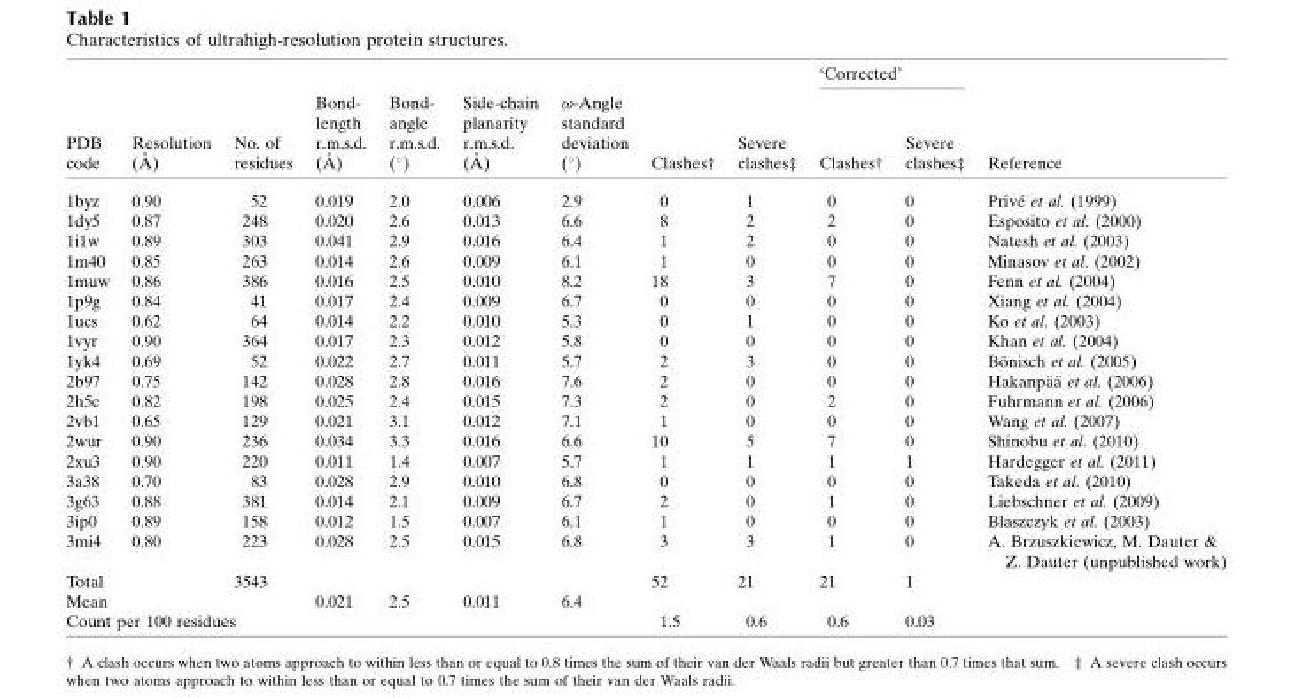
<table><thead><tr><td rowspan="2">PDB code</td><td rowspan="2">Resolution (A˚ )</td><td rowspan="2">No. of residues</td><td rowspan="2">Bond- length r.m.s.d. (A˚ )</td><td rowspan="2">Bond- angle r.m.s.d. (�)</td><td rowspan="2">Side-chain planarity r.m.s.d. (A˚ )</td><td rowspan="2">!-Angle standard deviation (�)</td><td rowspan="2">Clashes†</td><td rowspan="2">Severe clashes‡</td><td colspan="2">‘Corrected’</td><td rowspan="2">Reference</td></tr><tr><td>Clashes†</td><td>Severe clashes‡</td></tr></thead><tbody><tr><td>1byz</td><td>0.90</td><td>52</td><td>0.019</td><td>2.0</td><td>0.006</td><td>2.9</td><td>0</td><td>1</td><td>0</td><td>0</td><td>Prive´ et al. (1999)</td></tr><tr><td>1dy5</td><td>0.87</td><td>248</td><td>0.020</td><td>2.6</td><td>0.013</td><td>6.6</td><td>8</td><td>2</td><td>2</td><td>0</td><td>Esposito et al. (2000)</td></tr><tr><td>1i1w</td><td>0.89</td><td>303</td><td>0.041</td><td>2.9</td><td>0.016</td><td>6.4</td><td>1</td><td>2</td><td>0</td><td>0</td><td>Natesh et al. (2003)</td></tr><tr><td>1m40</td><td>0.85</td><td>263</td><td>0.014</td><td>2.6</td><td>0.009</td><td>6.1</td><td>1</td><td>0</td><td>0</td><td>0</td><td>Minasov et al. (2002)</td></tr><tr><td>1muw</td><td>0.86</td><td>386</td><td>0.016</td><td>2.5</td><td>0.010</td><td>8.2</td><td>18</td><td>3</td><td>7</td><td>0</td><td>Fenn et al. (2004)</td></tr><tr><td>1p9g</td><td>0.84</td><td>41</td><td>0.017</td><td>2.4</td><td>0.009</td><td>6.7</td><td>0</td><td>0</td><td>0</td><td>0</td><td>Xiang et al. (2004)</td></tr><tr><td>1ucs</td><td>0.62</td><td>64</td><td>0.014</td><td>2.2</td><td>0.010</td><td>5.3</td><td>0</td><td>1</td><td>0</td><td>0</td><td>Ko et al. (2003)</td></tr><tr><td>1vyr</td><td>0.90</td><td>364</td><td>0.017</td><td>2.3</td><td>0.012</td><td>5.8</td><td>0</td><td>0</td><td>0</td><td>0</td><td>Khan et al. (2004)</td></tr><tr><td>1yk4</td><td>0.69</td><td>52</td><td>0.022</td><td>2.7</td><td>0.011</td><td>5.7</td><td>2</td><td>3</td><td>0</td><td>0</td><td>Bo¨nisch et al. (2005)</td></tr><tr><td>2b97</td><td>0.75</td><td>142</td><td>0.028</td><td>2.8</td><td>0.016</td><td>7.6</td><td>2</td><td>0</td><td>0</td><td>0</td><td>Hakanpa¨a¨ et al. (2006)</td></tr><tr><td>2h5c</td><td>0.82</td><td>198</td><td>0.025</td><td>2.4</td><td>0.015</td><td>7.3</td><td>2</td><td>0</td><td>2</td><td>0</td><td>Fuhrmann et al. (2006)</td></tr><tr><td>2vb1</td><td>0.65</td><td>129</td><td>0.021</td><td>3.1</td><td>0.012</td><td>7.1</td><td>1</td><td>0</td><td>0</td><td>0</td><td>Wang et al. (2007)</td></tr><tr><td>2wur</td><td>0.90</td><td>236</td><td>0.034</td><td>3.3</td><td>0.016</td><td>6.6</td><td>10</td><td>5</td><td>7</td><td>0</td><td>Shinobu et al. (2010)</td></tr><tr><td>2xu3</td><td>0.90</td><td>220</td><td>0.011</td><td>1.4</td><td>0.007</td><td>5.7</td><td>1</td><td>1</td><td>1</td><td>1</td><td>Hardegger et al. (2011)</td></tr><tr><td>3a38</td><td>0.70</td><td>83</td><td>0.028</td><td>2.9</td><td>0.010</td><td>6.8</td><td>0</td><td>0</td><td>0</td><td>0</td><td>Takeda et al. (2010)</td></tr><tr><td>3g63</td><td>0.88</td><td>381</td><td>0.014</td><td>2.1</td><td>0.009</td><td>6.7</td><td>2</td><td>0</td><td>1</td><td>0</td><td>Liebschner et al. (2009)</td></tr><tr><td>3ip0</td><td>0.89</td><td>158</td><td>0.012</td><td>1.5</td><td>0.007</td><td>6.1</td><td>1</td><td>0</td><td>0</td><td>0</td><td>Blaszczyk et al. (2003)</td></tr><tr><td>3mi4</td><td>0.80</td><td>223</td><td>0.028</td><td>2.5</td><td>0.015</td><td>6.8</td><td>3</td><td>3</td><td>1</td><td>0</td><td>A. Brzuszkiewicz, M. Dauter &amp; Z. Dauter (unpublished work)</td></tr><tr><td>Total</td><td></td><td>3543</td><td></td><td></td><td></td><td></td><td>52</td><td>21</td><td>21</td><td>1</td><td></td></tr><tr><td>Mean</td><td></td><td></td><td>0.021</td><td>2.5</td><td>0.011</td><td>6.4</td><td></td><td></td><td></td><td></td><td></td></tr><tr><td colspan="3">Count per 100 residues</td><td></td><td></td><td></td><td></td><td>1.5</td><td>0.6</td><td>0.6</td><td>0.03</td><td></td></tr></tbody></table>